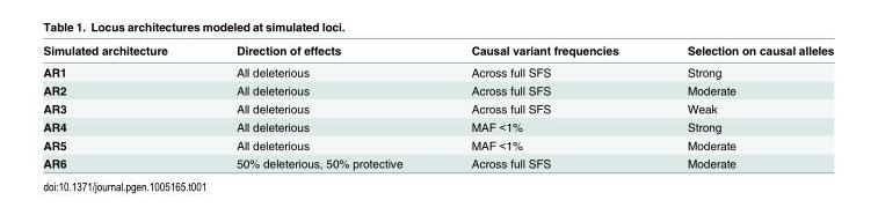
<table><thead><tr><td>Simulated architecture</td><td>Direction of effects</td><td>Causal variant frequencies</td><td>Selection on causal alleles</td></tr></thead><tbody><tr><td>AR1</td><td>All deleterious</td><td>Across full SFS</td><td>Strong</td></tr><tr><td>AR2</td><td>All deleterious</td><td>Across full SFS</td><td>Moderate</td></tr><tr><td>AR3</td><td>All deleterious</td><td>Across full SFS</td><td>Weak</td></tr><tr><td>AR4</td><td>All deleterious</td><td>MAF &lt;1%</td><td>Strong</td></tr><tr><td>AR5</td><td>All deleterious</td><td>MAF &lt;1%</td><td>Moderate</td></tr><tr><td>AR6</td><td>50% deleterious, 50% protective</td><td>Across full SFS</td><td>Moderate</td></tr></tbody></table>